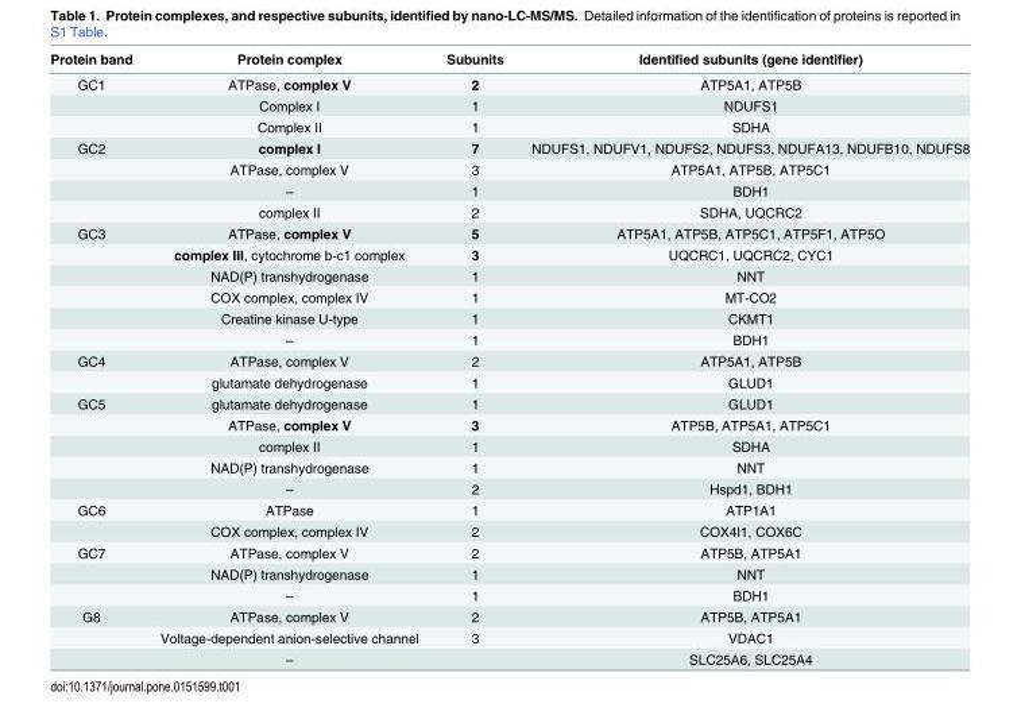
<table><thead><tr><td>Protein band</td><td>Protein complex</td><td>Subunits</td><td>Identified subunits (gene identifier)</td></tr></thead><tbody><tr><td rowspan="3">GC1</td><td>ATPase, complex V</td><td>2</td><td>ATP5A1, ATP5B</td></tr><tr><td>Complex I</td><td>1</td><td>NDUFS1</td></tr><tr><td>Complex II</td><td>1</td><td>SDHA</td></tr><tr><td rowspan="4">GC2</td><td>complex I</td><td>7</td><td>NDUFS1, NDUFV1, NDUFS2, NDUFS3, NDUFA13, NDUFB10, NDUFS8</td></tr><tr><td>ATPase, complex V</td><td>3</td><td>ATP5A1, ATP5B, ATP5C1</td></tr><tr><td>–</td><td>1</td><td>BDH1</td></tr><tr><td>complex II</td><td>2</td><td>SDHA, UQCRC2</td></tr><tr><td rowspan="6">GC3</td><td>ATPase, complex V</td><td>5</td><td>ATP5A1, ATP5B, ATP5C1, ATP5F1, ATP5O</td></tr><tr><td>complex III, cytochrome b-c1 complex</td><td>3</td><td>UQCRC1, UQCRC2, CYC1</td></tr><tr><td>NAD(P) transhydrogenase</td><td>1</td><td>NNT</td></tr><tr><td>COX complex, complex IV</td><td>1</td><td>MT-CO2</td></tr><tr><td>Creatine kinase U-type</td><td>1</td><td>CKMT1</td></tr><tr><td>–</td><td>1</td><td>BDH1</td></tr><tr><td rowspan="2">GC4</td><td>ATPase, complex V</td><td>2</td><td>ATP5A1, ATP5B</td></tr><tr><td>glutamate dehydrogenase</td><td>1</td><td>GLUD1</td></tr><tr><td rowspan="5">GC5</td><td>glutamate dehydrogenase</td><td>1</td><td>GLUD1</td></tr><tr><td>ATPase, complex V</td><td>3</td><td>ATP5B, ATP5A1, ATP5C1</td></tr><tr><td>complex II</td><td>1</td><td>SDHA</td></tr><tr><td>NAD(P) transhydrogenase</td><td>1</td><td>NNT</td></tr><tr><td>–</td><td>2</td><td>Hspd1, BDH1</td></tr><tr><td rowspan="2">GC6</td><td>ATPase</td><td>1</td><td>ATP1A1</td></tr><tr><td>COX complex, complex IV</td><td>2</td><td>COX4I1, COX6C</td></tr><tr><td rowspan="3">GC7</td><td>ATPase, complex V</td><td>2</td><td>ATP5B, ATP5A1</td></tr><tr><td>NAD(P) transhydrogenase</td><td>1</td><td>NNT</td></tr><tr><td>–</td><td>1</td><td>BDH1</td></tr><tr><td rowspan="3">G8</td><td>ATPase, complex V</td><td>2</td><td>ATP5B, ATP5A1</td></tr><tr><td>Voltage-dependent anion-selective channel</td><td>3</td><td>VDAC1</td></tr><tr><td>–</td><td></td><td>SLC25A6, SLC25A4</td></tr></tbody></table>